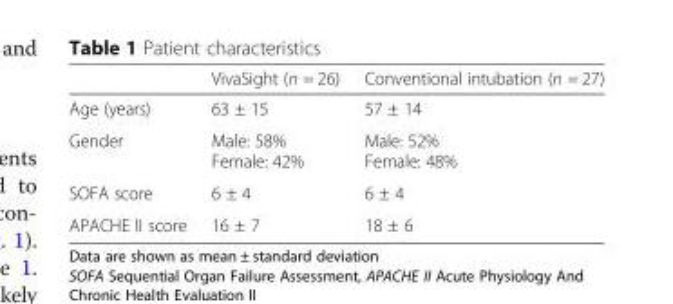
<table><thead><tr><td></td><td>VivaSight (n = 26)</td><td>Conventional intubation (n = 27)</td></tr></thead><tbody><tr><td>Age (years)</td><td>63 ± 15</td><td>57 ± 14</td></tr><tr><td>Gender</td><td>Male: 58% Female: 42%</td><td>Male: 52% Female: 48%</td></tr><tr><td>SOFA score</td><td>6 ± 4</td><td>6 ± 4</td></tr><tr><td>APACHE II score</td><td>16 ± 7</td><td>18 ± 6</td></tr></tbody></table>